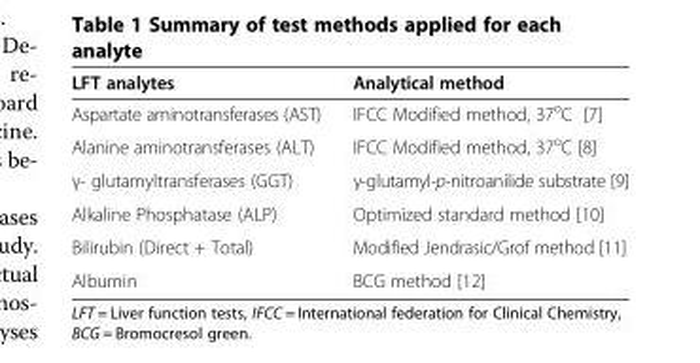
<table><thead><tr><td>LFT analytes</td><td>Analytical method</td></tr></thead><tbody><tr><td>Aspartate aminotransferases (AST)</td><td>IFCC Modified method, 37<sup>o</sup>C [7]</td></tr><tr><td>Alanine aminotransferases (ALT)</td><td>IFCC Modified method, 37<sup>o</sup>C [8]</td></tr><tr><td>γ- glutamyltransferases (GGT)</td><td>γ-glutamyl-p-nitroanilide substrate [9]</td></tr><tr><td>Alkaline Phosphatase (ALP)</td><td>Optimized standard method [10]</td></tr><tr><td>Bilirubin (Direct + Total)</td><td>Modified Jendrasic/Grof method [11]</td></tr><tr><td>Albumin</td><td>BCG method [12]</td></tr></tbody></table>